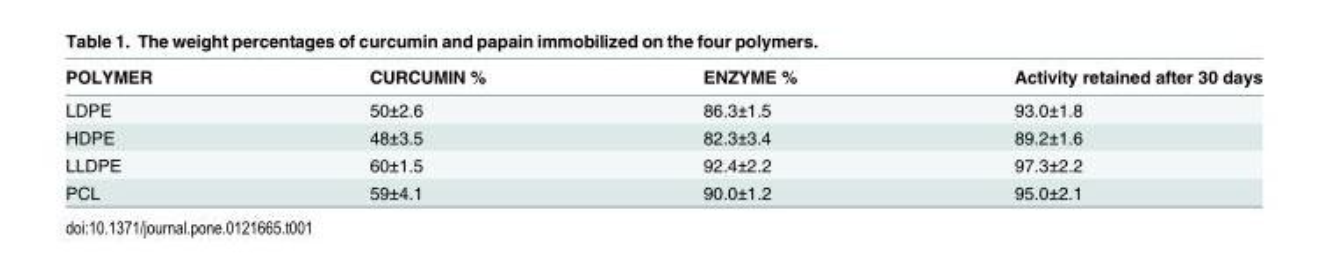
<table><thead><tr><td>POLYMER</td><td>CURCUMIN %</td><td>ENZYME %</td><td>Activity retained after 30 days</td></tr></thead><tbody><tr><td>LDPE</td><td>50±2.6</td><td>86.3±1.5</td><td>93.0±1.8</td></tr><tr><td>HDPE</td><td>48±3.5</td><td>82.3±3.4</td><td>89.2±1.6</td></tr><tr><td>LLDPE</td><td>60±1.5</td><td>92.4±2.2</td><td>97.3±2.2</td></tr><tr><td>PCL</td><td>59±4.1</td><td>90.0±1.2</td><td>95.0±2.1</td></tr></tbody></table>